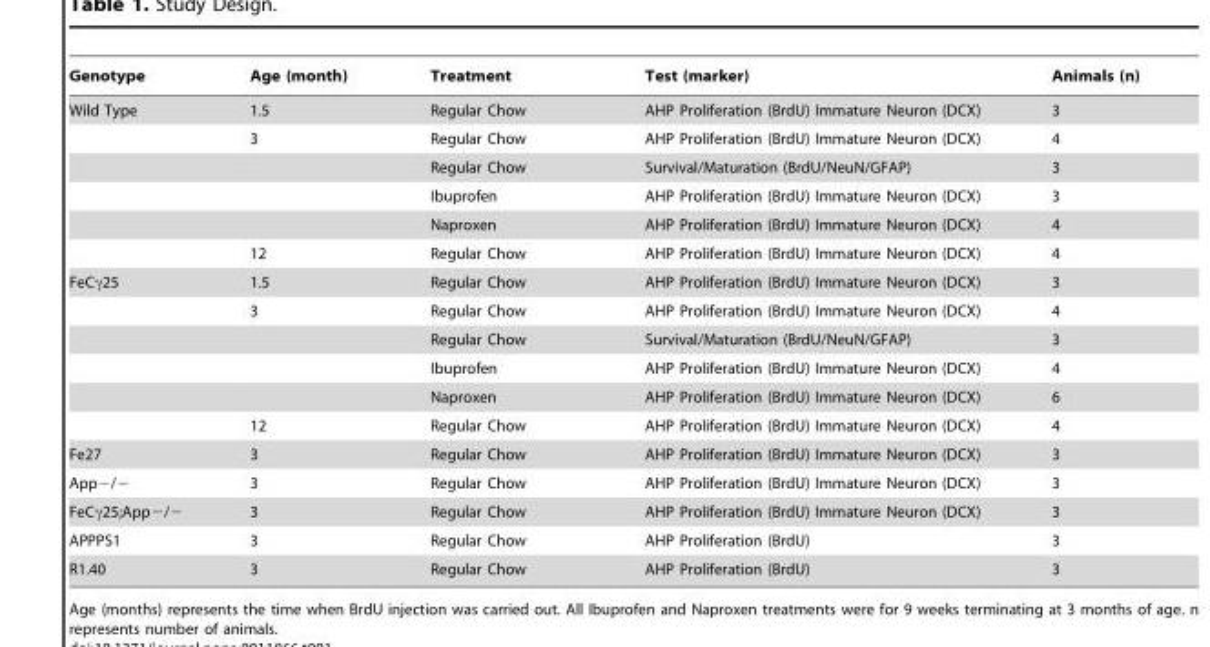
<table><thead><tr><td>Genotype</td><td>Age (month)</td><td>Treatment</td><td>Test (marker)</td><td>Animals (n)</td></tr></thead><tbody><tr><td rowspan="6">Wild Type</td><td>1.5</td><td>Regular Chow</td><td>AHP Proliferation (BrdU) Immature Neuron (DCX)</td><td>3</td></tr><tr><td>3</td><td>Regular Chow</td><td>AHP Proliferation (BrdU) Immature Neuron (DCX)</td><td>4</td></tr><tr><td></td><td>Regular Chow</td><td>Survival/Maturation (BrdU/NeuN/GFAP)</td><td>3</td></tr><tr><td></td><td>Ibuprofen</td><td>AHP Proliferation (BrdU) Immature Neuron (DCX)</td><td>3</td></tr><tr><td></td><td>Naproxen</td><td>AHP Proliferation (BrdU) Immature Neuron (DCX)</td><td>4</td></tr><tr><td>12</td><td>Regular Chow</td><td>AHP Proliferation (BrdU) Immature Neuron (DCX)</td><td>4</td></tr><tr><td rowspan="6">FeCγ25</td><td>1.5</td><td>Regular Chow</td><td>AHP Proliferation (BrdU) Immature Neuron (DCX)</td><td>3</td></tr><tr><td>3</td><td>Regular Chow</td><td>AHP Proliferation (BrdU) Immature Neuron (DCX)</td><td>4</td></tr><tr><td></td><td>Regular Chow</td><td>Survival/Maturation (BrdU/NeuN/GFAP)</td><td>3</td></tr><tr><td></td><td>Ibuprofen</td><td>AHP Proliferation (BrdU) Immature Neuron (DCX)</td><td>4</td></tr><tr><td></td><td>Naproxen</td><td>AHP Proliferation (BrdU) Immature Neuron (DCX)</td><td>6</td></tr><tr><td>12</td><td>Regular Chow</td><td>AHP Proliferation (BrdU) Immature Neuron (DCX)</td><td>4</td></tr><tr><td>Fe27</td><td>3</td><td>Regular Chow</td><td>AHP Proliferation (BrdU) Immature Neuron (DCX)</td><td>3</td></tr><tr><td>App−/−</td><td>3</td><td>Regular Chow</td><td>AHP Proliferation (BrdU) Immature Neuron (DCX)</td><td>3</td></tr><tr><td>FeCγ25;App−/−</td><td>3</td><td>Regular Chow</td><td>AHP Proliferation (BrdU) Immature Neuron (DCX)</td><td>3</td></tr><tr><td>APPPS1</td><td>3</td><td>Regular Chow</td><td>AHP Proliferation (BrdU)</td><td>3</td></tr><tr><td>R1.40</td><td>3</td><td>Regular Chow</td><td>AHP Proliferation (BrdU)</td><td>3</td></tr></tbody></table>